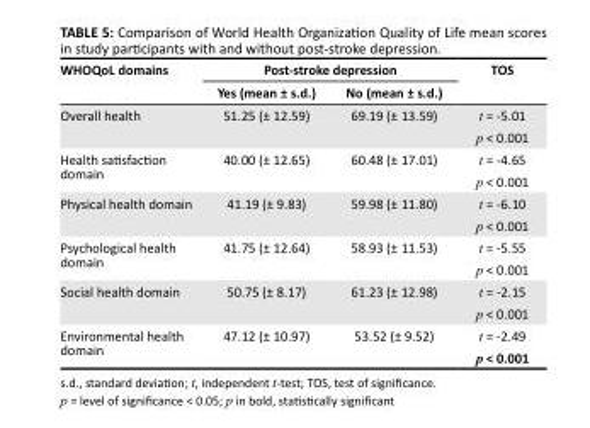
<table><thead><tr><td rowspan="2">WHOQoL domains</td><td colspan="2">Post-stroke depression</td><td rowspan="2">TOS</td></tr><tr><td>Yes (mean ± s.d.)</td><td>No (mean ± s.d.)</td></tr></thead><tbody><tr><td>Overall health</td><td>51.25 (± 12.59)</td><td>69.19 (± 13.59)</td><td>t = -5.01 p &lt; 0.001</td></tr><tr><td>Health satisfaction domain</td><td>40.00 (± 12.65)</td><td>60.48 (± 17.01)</td><td>t = -4.65 p &lt; 0.001</td></tr><tr><td>Physical health domain</td><td>41.19 (± 9.83)</td><td>59.98 (± 11.80)</td><td>t = -6.10 p &lt; 0.001</td></tr><tr><td>Psychological health domain</td><td>41.75 (± 12.64)</td><td>58.93 (± 11.53)</td><td>t = -5.55 p &lt; 0.001</td></tr><tr><td>Social health domain</td><td>50.75 (± 8.17)</td><td>61.23 (± 12.98)</td><td>t = -2.15 p &lt; 0.001</td></tr><tr><td>Environmental health domain</td><td>47.12 (± 10.97)</td><td>53.52 (± 9.52)</td><td>t = -2.49 p &lt; 0.001</td></tr></tbody></table>